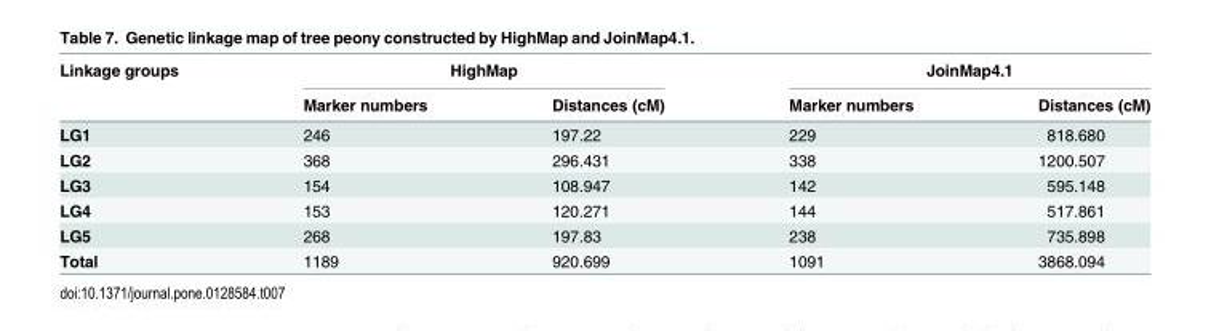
<table><thead><tr><td rowspan="2">Linkage groups</td><td colspan="2">HighMap</td><td colspan="2">JoinMap4.1</td></tr><tr><td>Marker numbers</td><td>Distances (cM)</td><td>Marker numbers</td><td>Distances (cM)</td></tr></thead><tbody><tr><td>LG1</td><td>246</td><td>197.22</td><td>229</td><td>818.680</td></tr><tr><td>LG2</td><td>368</td><td>296.431</td><td>338</td><td>1200.507</td></tr><tr><td>LG3</td><td>154</td><td>108.947</td><td>142</td><td>595.148</td></tr><tr><td>LG4</td><td>153</td><td>120.271</td><td>144</td><td>517.861</td></tr><tr><td>LG5</td><td>268</td><td>197.83</td><td>238</td><td>735.898</td></tr><tr><td>Total</td><td>1189</td><td>920.699</td><td>1091</td><td>3868.094</td></tr></tbody></table>